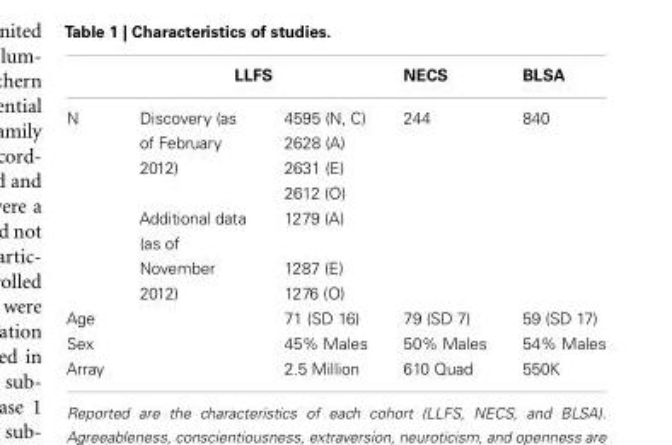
<table><thead><tr><td rowspan="2">N</td><td colspan="2">LLFS</td><td rowspan="2">NECS 244</td><td rowspan="2">BLSA 840</td></tr><tr><td>Discovery (as of February 2012)</td><td>4595 (N, C) 2628 (A) 2631 (E) 2612 (O)</td></tr></thead><tbody><tr><td></td><td>Additional data (as of November 2012)</td><td>1279 (A) 1287 (E) 1276 (O)</td><td></td><td></td></tr><tr><td>Age</td><td></td><td>71 (SD 16)</td><td>79 (SD 7)</td><td>59 (SD 17)</td></tr><tr><td>Sex</td><td></td><td>45% Males</td><td>50% Males</td><td>54% Males</td></tr><tr><td>Array</td><td></td><td>2.5 Million</td><td>610 Quad</td><td>550K</td></tr></tbody></table>